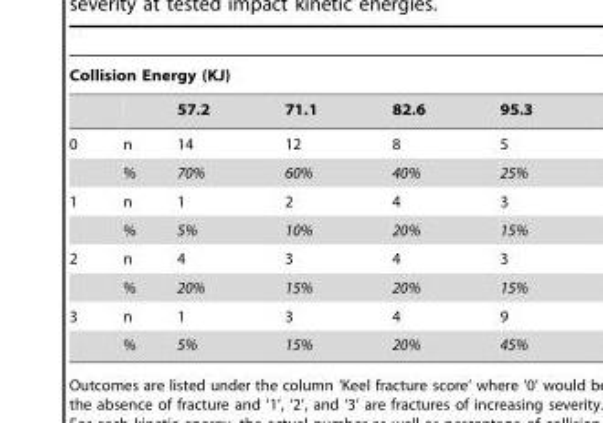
<table><thead><tr><td colspan="6">Collision Energy (KJ)</td></tr><tr><td></td><td></td><td>57.2</td><td>71.1</td><td>82.6</td><td>95.3</td></tr></thead><tbody><tr><td rowspan="2">0</td><td>n</td><td>14</td><td>12</td><td>8</td><td>5</td></tr><tr><td>%</td><td>70%</td><td>60%</td><td>40%</td><td>25%</td></tr><tr><td rowspan="2">1</td><td>n</td><td>1</td><td>2</td><td>4</td><td>3</td></tr><tr><td>%</td><td>5%</td><td>10%</td><td>20%</td><td>15%</td></tr><tr><td rowspan="2">2</td><td>n</td><td>4</td><td>3</td><td>4</td><td>3</td></tr><tr><td>%</td><td>20%</td><td>15%</td><td>20%</td><td>15%</td></tr><tr><td rowspan="2">3</td><td>n</td><td>1</td><td>3</td><td>4</td><td>9</td></tr><tr><td>%</td><td>5%</td><td>15%</td><td>20%</td><td>45%</td></tr></tbody></table>